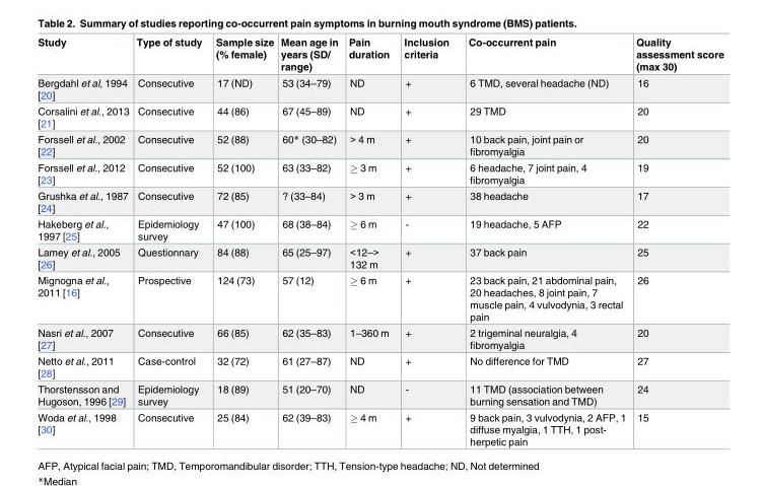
<table><thead><tr><td>Study</td><td>Type of study</td><td>Sample size (% female)</td><td>Mean age in years (SD/ range)</td><td>Pain duration</td><td>Inclusion criteria</td><td>Co-occurrent pain</td><td>Quality assessment score (max 30)</td></tr></thead><tbody><tr><td>Bergdahl et al, 1994 [20]</td><td>Consecutive</td><td>17 (ND)</td><td>53 (34–79)</td><td>ND</td><td>+</td><td>6 TMD, several headache (ND)</td><td>16</td></tr><tr><td>Corsalini et al., 2013 [21]</td><td>Consecutive</td><td>44 (86)</td><td>67 (45–89)</td><td>ND</td><td>+</td><td>29 TMD</td><td>20</td></tr><tr><td>Forssell et al., 2002 [22]</td><td>Consecutive</td><td>52 (88)</td><td>60* (30–82)</td><td>&gt; 4 m</td><td>+</td><td>10 back pain, joint pain or fibromyalgia</td><td>20</td></tr><tr><td>Forssell et al., 2012 [23]</td><td>Consecutive</td><td>52 (100)</td><td>63 (33–82)</td><td>≥ 3 m</td><td>+</td><td>6 headache, 7 joint pain, 4 fibromyalgia</td><td>19</td></tr><tr><td>Grushka et al., 1987 [24]</td><td>Consecutive</td><td>72 (85)</td><td>? (33–84)</td><td>&gt; 3 m</td><td>+</td><td>38 headache</td><td>17</td></tr><tr><td>Hakeberg et al., 1997 [25]</td><td>Epidemiology survey</td><td>47 (100)</td><td>68 (38–84)</td><td>≥ 6 m</td><td>-</td><td>19 headache, 5 AFP</td><td>22</td></tr><tr><td>Lamey et al., 2005 [26]</td><td>Questionnary</td><td>84 (88)</td><td>65 (25–97)</td><td>&lt;12–&gt; 132 m</td><td>+</td><td>37 back pain</td><td>25</td></tr><tr><td>Mignogna et al., 2011 [16]</td><td>Prospective</td><td>124 (73)</td><td>57 (12)</td><td>≥ 6 m</td><td>+</td><td>23 back pain, 21 abdominal pain, 20 headaches, 8 joint pain, 7 muscle pain, 4 vulvodynia, 3 rectal pain</td><td>26</td></tr><tr><td>Nasri et al., 2007 [27]</td><td>Consecutive</td><td>66 (85)</td><td>62 (35–83)</td><td>1–360 m</td><td>+</td><td>2 trigeminal neuralgia, 4 fibromyalgia</td><td>20</td></tr><tr><td>Netto et al., 2011 [28]</td><td>Case-control</td><td>32 (72)</td><td>61 (27–87)</td><td>ND</td><td>+</td><td>No difference for TMD</td><td>27</td></tr><tr><td>Thorstensson and Hugoson, 1996 [29]</td><td>Epidemiology survey</td><td>18 (89)</td><td>51 (20–70)</td><td>ND</td><td>-</td><td>11 TMD (association between burning sensation and TMD)</td><td>24</td></tr><tr><td>Woda et al., 1998 [30]</td><td>Consecutive</td><td>25 (84)</td><td>62 (39–83)</td><td>≥ 4 m</td><td>+</td><td>9 back pain, 3 vulvodynia, 2 AFP, 1 diffuse myalgia, 1 TTH, 1 post- herpetic pain</td><td>15</td></tr></tbody></table>